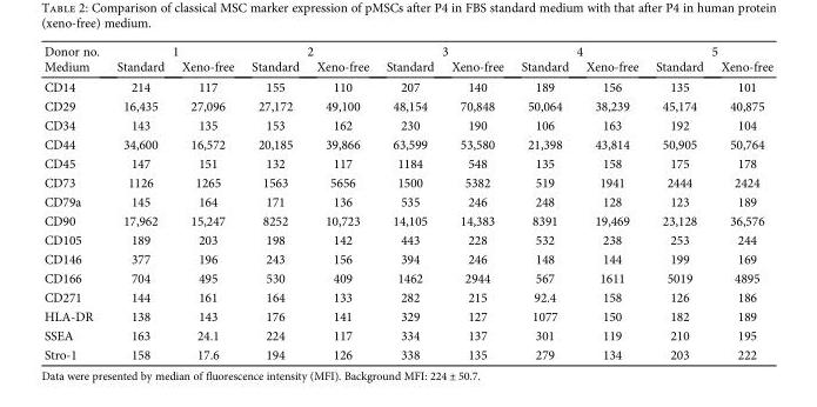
<table><thead><tr><td rowspan="2">Donor no. Medium</td><td colspan="2">1</td><td colspan="2">2</td><td colspan="2">3</td><td colspan="2">4</td><td colspan="2">5</td></tr><tr><td>Standard</td><td>Xeno-free</td><td>Standard</td><td>Xeno-free</td><td>Standard</td><td>Xeno-free</td><td>Standard</td><td>Xeno-free</td><td>Standard</td><td>Xeno-free</td></tr></thead><tbody><tr><td>CD14</td><td>214</td><td>117</td><td>155</td><td>110</td><td>207</td><td>140</td><td>189</td><td>156</td><td>135</td><td>101</td></tr><tr><td>CD29</td><td>16,435</td><td>27,096</td><td>27,172</td><td>49,100</td><td>48,154</td><td>70,848</td><td>50,064</td><td>38,239</td><td>45,174</td><td>40,875</td></tr><tr><td>CD34</td><td>143</td><td>135</td><td>153</td><td>162</td><td>230</td><td>190</td><td>106</td><td>163</td><td>192</td><td>104</td></tr><tr><td>CD44</td><td>34,600</td><td>16,572</td><td>20,185</td><td>39,866</td><td>63,599</td><td>53,580</td><td>21,398</td><td>43,814</td><td>50,905</td><td>50,764</td></tr><tr><td>CD45</td><td>147</td><td>151</td><td>132</td><td>117</td><td>1184</td><td>548</td><td>135</td><td>158</td><td>175</td><td>178</td></tr><tr><td>CD73</td><td>1126</td><td>1265</td><td>1563</td><td>5656</td><td>1500</td><td>5382</td><td>519</td><td>1941</td><td>2444</td><td>2424</td></tr><tr><td>CD79a</td><td>145</td><td>164</td><td>171</td><td>136</td><td>535</td><td>246</td><td>248</td><td>128</td><td>123</td><td>189</td></tr><tr><td>CD90</td><td>17,962</td><td>15,247</td><td>8252</td><td>10,723</td><td>14,105</td><td>14,383</td><td>8391</td><td>19,469</td><td>23,128</td><td>36,576</td></tr><tr><td>CD105</td><td>189</td><td>203</td><td>198</td><td>142</td><td>443</td><td>228</td><td>532</td><td>238</td><td>253</td><td>244</td></tr><tr><td>CD146</td><td>377</td><td>196</td><td>243</td><td>156</td><td>394</td><td>246</td><td>148</td><td>144</td><td>199</td><td>169</td></tr><tr><td>CD166</td><td>704</td><td>495</td><td>530</td><td>409</td><td>1462</td><td>2944</td><td>567</td><td>1611</td><td>5019</td><td>4895</td></tr><tr><td>CD271</td><td>144</td><td>161</td><td>164</td><td>133</td><td>282</td><td>215</td><td>92.4</td><td>158</td><td>126</td><td>186</td></tr><tr><td>HLA-DR</td><td>138</td><td>143</td><td>176</td><td>141</td><td>329</td><td>127</td><td>1077</td><td>150</td><td>182</td><td>189</td></tr><tr><td>SSEA</td><td>163</td><td>24.1</td><td>224</td><td>117</td><td>334</td><td>137</td><td>301</td><td>119</td><td>210</td><td>195</td></tr><tr><td>Stro-1</td><td>158</td><td>17.6</td><td>194</td><td>126</td><td>338</td><td>135</td><td>279</td><td>134</td><td>203</td><td>222</td></tr></tbody></table>